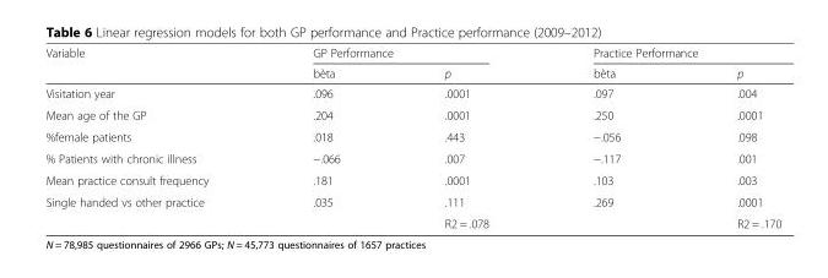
<table><thead><tr><td rowspan="2">Variable</td><td colspan="2">GP Performance</td><td colspan="2">Practice Performance</td></tr><tr><td>bèta</td><td>p</td><td>bèta</td><td>p</td></tr></thead><tbody><tr><td>Visitation year</td><td>.096</td><td>.0001</td><td>.097</td><td>.004</td></tr><tr><td>Mean age of the GP</td><td>.204</td><td>.0001</td><td>.250</td><td>.0001</td></tr><tr><td>%female patients</td><td>.018</td><td>.443</td><td>−.056</td><td>.098</td></tr><tr><td>% Patients with chronic illness</td><td>−.066</td><td>.007</td><td>−.117</td><td>.001</td></tr><tr><td>Mean practice consult frequency</td><td>.181</td><td>.0001</td><td>.103</td><td>.003</td></tr><tr><td rowspan="2">Single handed vs other practice</td><td>.035</td><td>.111</td><td>.269</td><td>.0001</td></tr><tr><td></td><td>R2 = .078</td><td></td><td>R2 = .170</td></tr></tbody></table>